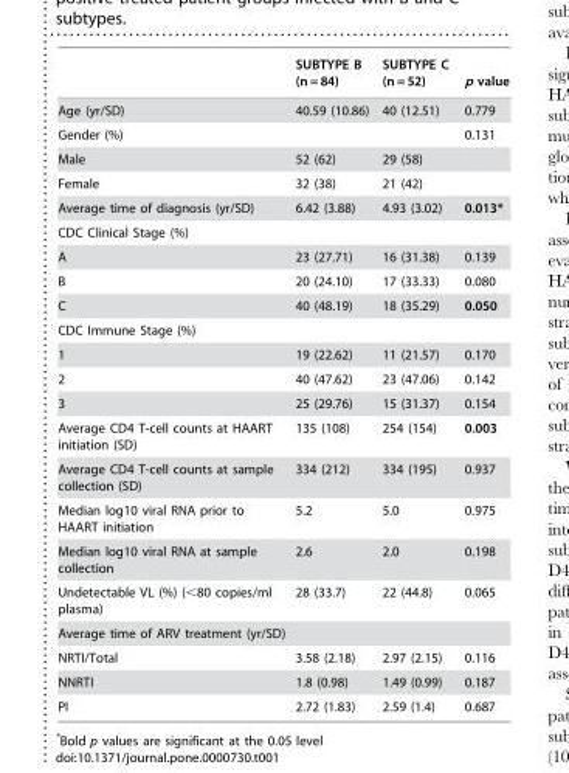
<table><thead><tr><td></td><td>SUBTYPE B (n = 84)</td><td>SUBTYPE C (n = 52)</td><td>p value</td></tr></thead><tbody><tr><td>Age (yr/SD)</td><td>40.59 (10.86)</td><td>40 (12.51)</td><td>0.779</td></tr><tr><td>Gender (%)</td><td></td><td></td><td>0.131</td></tr><tr><td>Male</td><td>52 (62)</td><td>29 (58)</td><td></td></tr><tr><td>Female</td><td>32 (38)</td><td>21 (42)</td><td></td></tr><tr><td>Average time of diagnosis (yr/SD)</td><td>6.42 (3.88)</td><td>4.93 (3.02)</td><td>0.013*</td></tr><tr><td colspan="4">CDC Clinical Stage (%)</td></tr><tr><td>A</td><td>23 (27.71)</td><td>16 (31.38)</td><td>0.139</td></tr><tr><td>B</td><td>20 (24.10)</td><td>17 (33.33)</td><td>0.080</td></tr><tr><td>C</td><td>40 (48.19)</td><td>18 (35.29)</td><td>0.050</td></tr><tr><td colspan="4">CDC Immune Stage (%)</td></tr><tr><td>1</td><td>19 (22.62)</td><td>11 (21.57)</td><td>0.170</td></tr><tr><td>2</td><td>40 (47.62)</td><td>23 (47.06)</td><td>0.142</td></tr><tr><td>3</td><td>25 (29.76)</td><td>15 (31.37)</td><td>0.154</td></tr><tr><td>Average CD4 T-cell counts at HAART initiation (SD)</td><td>135 (108)</td><td>254 (154)</td><td>0.003</td></tr><tr><td>Average CD4 T-cell counts at sample collection (SD)</td><td>334 (212)</td><td>334 (195)</td><td>0.937</td></tr><tr><td>Median log10 viral RNA prior to HAART initiation</td><td>5.2</td><td>5.0</td><td>0.975</td></tr><tr><td>Median log10 viral RNA at sample collection</td><td>2.6</td><td>2.0</td><td>0.198</td></tr><tr><td>Undetectable VL (%) (&lt;80 copies/ml plasma)</td><td>28 (33.7)</td><td>22 (44.8)</td><td>0.065</td></tr><tr><td colspan="4">Average time of ARV treatment (yr/SD)</td></tr><tr><td>NRTI/Total</td><td>3.58 (2.18)</td><td>2.97 (2.15)</td><td>0.116</td></tr><tr><td>NNRTI</td><td>1.8 (0.98)</td><td>1.49 (0.99)</td><td>0.187</td></tr><tr><td>PI</td><td>2.72 (1.83)</td><td>2.59 (1.4)</td><td>0.687</td></tr></tbody></table>